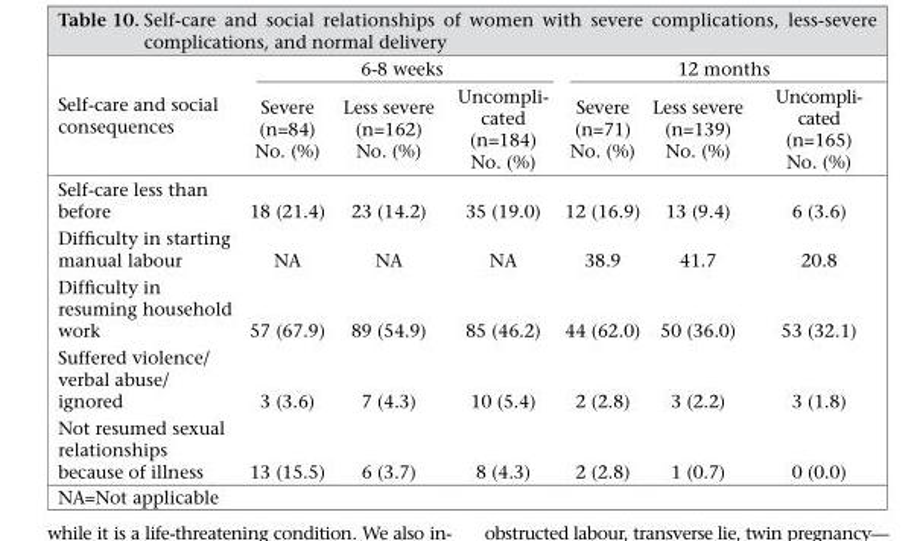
<table><thead><tr><td rowspan="2">Self-care and social consequences</td><td colspan="3">6-8 weeks</td><td colspan="3">12 months</td></tr><tr><td>Severe (n=84) No. (%)</td><td>Less severe (n=162) No. (%)</td><td>Uncompli- cated (n=184) No. (%)</td><td>Severe (n=71) No. (%)</td><td>Less severe (n=139) No. (%)</td><td>Uncompli- cated (n=165) No. (%)</td></tr></thead><tbody><tr><td>Self-care less than before</td><td>18 (21.4)</td><td>23 (14.2)</td><td>35 (19.0)</td><td>12 (16.9)</td><td>13 (9.4)</td><td>6 (3.6)</td></tr><tr><td>Difficulty in starting manual labour</td><td>NA</td><td>NA</td><td>NA</td><td>38.9</td><td>41.7</td><td>20.8</td></tr><tr><td>Difficulty in resuming household work</td><td>57 (67.9)</td><td>89 (54.9)</td><td>85 (46.2)</td><td>44 (62.0)</td><td>50 (36.0)</td><td>53 (32.1)</td></tr><tr><td>Suffered violence/ verbal abuse/ ignored</td><td>3 (3.6)</td><td>7 (4.3)</td><td>10 (5.4)</td><td>2 (2.8)</td><td>3 (2.2)</td><td>3 (1.8)</td></tr><tr><td>Not resumed sexual relationships because of illness</td><td>13 (15.5)</td><td>6 (3.7)</td><td>8 (4.3)</td><td>2 (2.8)</td><td>1 (0.7)</td><td>0 (0.0)</td></tr></tbody></table>